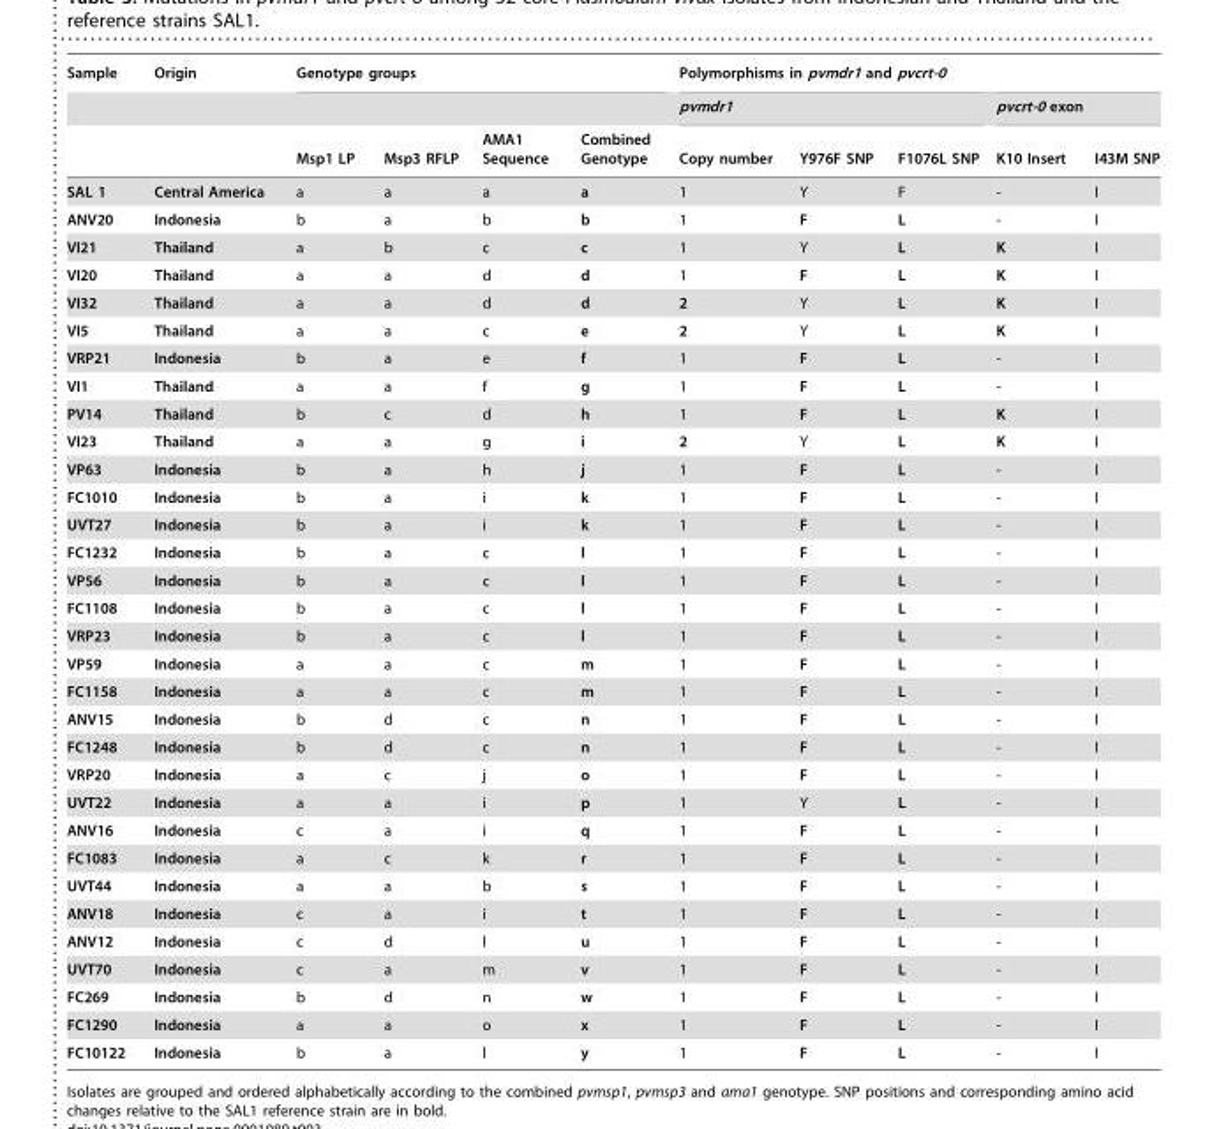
<table><thead><tr><td rowspan="3">Sample</td><td rowspan="3">Origin</td><td colspan="4">Genotype groups</td><td colspan="5">Polymorphisms in pvmdr1 and pvcrt-0</td></tr><tr><td rowspan="2">Msp1 LP</td><td rowspan="2">Msp3 RFLP</td><td rowspan="2">AMA1 Sequence</td><td rowspan="2">Combined Genotype</td><td colspan="3">pvmdr1</td><td colspan="2">pvcrt-0 exon</td></tr><tr><td>Copy number</td><td>Y976F SNP</td><td>F1076L SNP</td><td>K10 Insert</td><td>I43M SNP</td></tr></thead><tbody><tr><td>SAL 1</td><td>Central America</td><td>a</td><td>a</td><td>a</td><td>a</td><td>1</td><td>Y</td><td>F</td><td>-</td><td>I</td></tr><tr><td>ANV20</td><td>Indonesia</td><td>b</td><td>a</td><td>b</td><td>b</td><td>1</td><td>F</td><td>L</td><td>-</td><td>I</td></tr><tr><td>VI21</td><td>Thailand</td><td>a</td><td>b</td><td>c</td><td>c</td><td>1</td><td>Y</td><td>L</td><td>K</td><td>I</td></tr><tr><td>VI20</td><td>Thailand</td><td>a</td><td>a</td><td>d</td><td>d</td><td>1</td><td>F</td><td>L</td><td>K</td><td>I</td></tr><tr><td>VI32</td><td>Thailand</td><td>a</td><td>a</td><td>d</td><td>d</td><td>2</td><td>Y</td><td>L</td><td>K</td><td>I</td></tr><tr><td>VI5</td><td>Thailand</td><td>a</td><td>a</td><td>c</td><td>e</td><td>2</td><td>Y</td><td>L</td><td>K</td><td>I</td></tr><tr><td>VRP21</td><td>Indonesia</td><td>b</td><td>a</td><td>e</td><td>f</td><td>1</td><td>F</td><td>L</td><td>-</td><td>I</td></tr><tr><td>VI1</td><td>Thailand</td><td>a</td><td>a</td><td>f</td><td>g</td><td>1</td><td>F</td><td>L</td><td>-</td><td>I</td></tr><tr><td>PV14</td><td>Thailand</td><td>b</td><td>c</td><td>d</td><td>h</td><td>1</td><td>F</td><td>L</td><td>K</td><td>I</td></tr><tr><td>VI23</td><td>Thailand</td><td>a</td><td>a</td><td>g</td><td>i</td><td>2</td><td>Y</td><td>L</td><td>K</td><td>I</td></tr><tr><td>VP63</td><td>Indonesia</td><td>b</td><td>a</td><td>h</td><td>j</td><td>1</td><td>F</td><td>L</td><td>-</td><td>I</td></tr><tr><td>FC1010</td><td>Indonesia</td><td>b</td><td>a</td><td>i</td><td>k</td><td>1</td><td>F</td><td>L</td><td>-</td><td>I</td></tr><tr><td>UVT27</td><td>Indonesia</td><td>b</td><td>a</td><td>i</td><td>k</td><td>1</td><td>F</td><td>L</td><td>-</td><td>I</td></tr><tr><td>FC1232</td><td>Indonesia</td><td>b</td><td>a</td><td>c</td><td>l</td><td>1</td><td>F</td><td>L</td><td>-</td><td>I</td></tr><tr><td>VP56</td><td>Indonesia</td><td>b</td><td>a</td><td>c</td><td>l</td><td>1</td><td>F</td><td>L</td><td>-</td><td>I</td></tr><tr><td>FC1108</td><td>Indonesia</td><td>b</td><td>a</td><td>c</td><td>l</td><td>1</td><td>F</td><td>L</td><td>-</td><td>I</td></tr><tr><td>VRP23</td><td>Indonesia</td><td>b</td><td>a</td><td>c</td><td>l</td><td>1</td><td>F</td><td>L</td><td>-</td><td>I</td></tr><tr><td>VP59</td><td>Indonesia</td><td>a</td><td>a</td><td>c</td><td>m</td><td>1</td><td>F</td><td>L</td><td>-</td><td>I</td></tr><tr><td>FC1158</td><td>Indonesia</td><td>a</td><td>a</td><td>c</td><td>m</td><td>1</td><td>F</td><td>L</td><td>-</td><td>I</td></tr><tr><td>ANV15</td><td>Indonesia</td><td>b</td><td>d</td><td>c</td><td>n</td><td>1</td><td>F</td><td>L</td><td>-</td><td>I</td></tr><tr><td>FC1248</td><td>Indonesia</td><td>b</td><td>d</td><td>c</td><td>n</td><td>1</td><td>F</td><td>L</td><td>-</td><td>I</td></tr><tr><td>VRP20</td><td>Indonesia</td><td>a</td><td>c</td><td>j</td><td>o</td><td>1</td><td>F</td><td>L</td><td>-</td><td>I</td></tr><tr><td>UVT22</td><td>Indonesia</td><td>a</td><td>a</td><td>i</td><td>p</td><td>1</td><td>Y</td><td>L</td><td>-</td><td>I</td></tr><tr><td>ANV16</td><td>Indonesia</td><td>c</td><td>a</td><td>i</td><td>q</td><td>1</td><td>F</td><td>L</td><td>-</td><td>I</td></tr><tr><td>FC1083</td><td>Indonesia</td><td>a</td><td>c</td><td>k</td><td>r</td><td>1</td><td>F</td><td>L</td><td>-</td><td>I</td></tr><tr><td>UVT44</td><td>Indonesia</td><td>a</td><td>a</td><td>b</td><td>s</td><td>1</td><td>F</td><td>L</td><td>-</td><td>I</td></tr><tr><td>ANV18</td><td>Indonesia</td><td>c</td><td>a</td><td>i</td><td>t</td><td>1</td><td>F</td><td>L</td><td>-</td><td>I</td></tr><tr><td>ANV12</td><td>Indonesia</td><td>c</td><td>d</td><td>l</td><td>u</td><td>1</td><td>F</td><td>L</td><td>-</td><td>I</td></tr><tr><td>UVT70</td><td>Indonesia</td><td>c</td><td>a</td><td>m</td><td>v</td><td>1</td><td>F</td><td>L</td><td>-</td><td>I</td></tr><tr><td>FC269</td><td>Indonesia</td><td>b</td><td>d</td><td>n</td><td>w</td><td>1</td><td>F</td><td>L</td><td>-</td><td>I</td></tr><tr><td>FC1290</td><td>Indonesia</td><td>a</td><td>a</td><td>o</td><td>x</td><td>1</td><td>F</td><td>L</td><td>-</td><td>I</td></tr><tr><td>FC10122</td><td>Indonesia</td><td>b</td><td>a</td><td>l</td><td>y</td><td>1</td><td>F</td><td>L</td><td>-</td><td>I</td></tr></tbody></table>